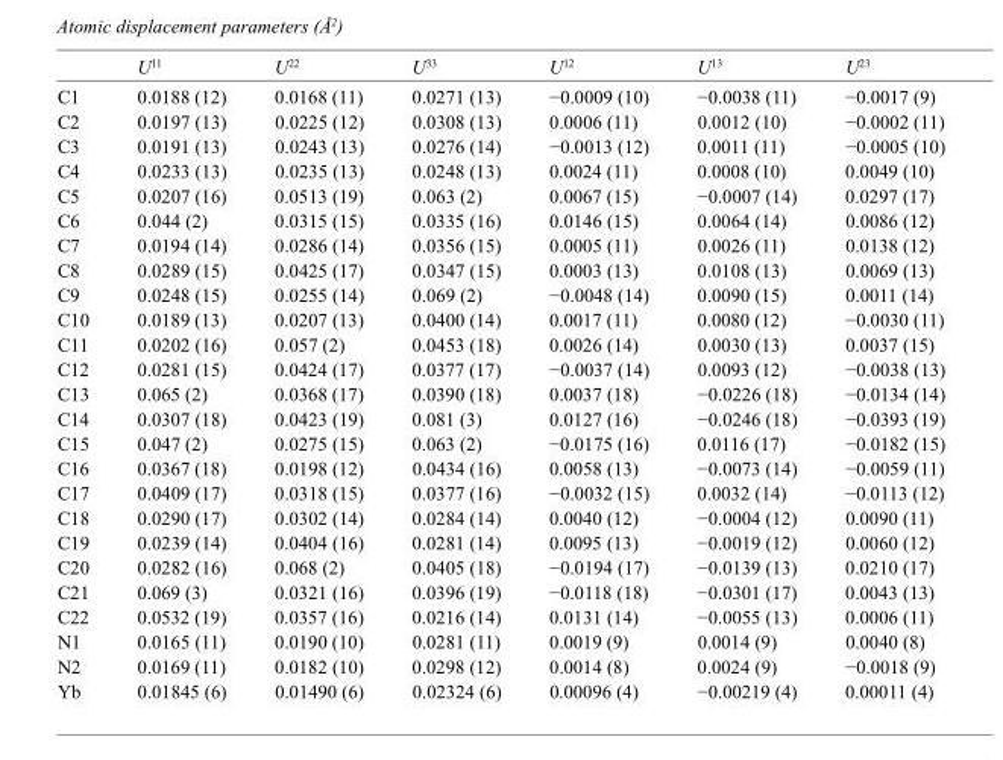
<table><thead><tr><td></td><td>U<sup>11</sup></td><td>U<sup>22</sup></td><td>U<sup>33</sup></td><td>U<sup>12</sup></td><td>U<sup>13</sup></td><td>U<sup>23</sup></td></tr></thead><tbody><tr><td>C1</td><td>0.0188 (12)</td><td>0.0168 (11)</td><td>0.0271 (13)</td><td>−0.0009 (10)</td><td>−0.0038 (11)</td><td>−0.0017 (9)</td></tr><tr><td>C2</td><td>0.0197 (13)</td><td>0.0225 (12)</td><td>0.0308 (13)</td><td>0.0006 (11)</td><td>0.0012 (10)</td><td>−0.0002 (11)</td></tr><tr><td>C3</td><td>0.0191 (13)</td><td>0.0243 (13)</td><td>0.0276 (14)</td><td>−0.0013 (12)</td><td>0.0011 (11)</td><td>−0.0005 (10)</td></tr><tr><td>C4</td><td>0.0233 (13)</td><td>0.0235 (13)</td><td>0.0248 (13)</td><td>0.0024 (11)</td><td>0.0008 (10)</td><td>0.0049 (10)</td></tr><tr><td>C5</td><td>0.0207 (16)</td><td>0.0513 (19)</td><td>0.063 (2)</td><td>0.0067 (15)</td><td>−0.0007 (14)</td><td>0.0297 (17)</td></tr><tr><td>C6</td><td>0.044 (2)</td><td>0.0315 (15)</td><td>0.0335 (16)</td><td>0.0146 (15)</td><td>0.0064 (14)</td><td>0.0086 (12)</td></tr><tr><td>C7</td><td>0.0194 (14)</td><td>0.0286 (14)</td><td>0.0356 (15)</td><td>0.0005 (11)</td><td>0.0026 (11)</td><td>0.0138 (12)</td></tr><tr><td>C8</td><td>0.0289 (15)</td><td>0.0425 (17)</td><td>0.0347 (15)</td><td>0.0003 (13)</td><td>0.0108 (13)</td><td>0.0069 (13)</td></tr><tr><td>C9</td><td>0.0248 (15)</td><td>0.0255 (14)</td><td>0.069 (2)</td><td>−0.0048 (14)</td><td>0.0090 (15)</td><td>0.0011 (14)</td></tr><tr><td>C10</td><td>0.0189 (13)</td><td>0.0207 (13)</td><td>0.0400 (14)</td><td>0.0017 (11)</td><td>0.0080 (12)</td><td>−0.0030 (11)</td></tr><tr><td>C11</td><td>0.0202 (16)</td><td>0.057 (2)</td><td>0.0453 (18)</td><td>0.0026 (14)</td><td>0.0030 (13)</td><td>0.0037 (15)</td></tr><tr><td>C12</td><td>0.0281 (15)</td><td>0.0424 (17)</td><td>0.0377 (17)</td><td>−0.0037 (14)</td><td>0.0093 (12)</td><td>−0.0038 (13)</td></tr><tr><td>C13</td><td>0.065 (2)</td><td>0.0368 (17)</td><td>0.0390 (18)</td><td>0.0037 (18)</td><td>−0.0226 (18)</td><td>−0.0134 (14)</td></tr><tr><td>C14</td><td>0.0307 (18)</td><td>0.0423 (19)</td><td>0.081 (3)</td><td>0.0127 (16)</td><td>−0.0246 (18)</td><td>−0.0393 (19)</td></tr><tr><td>C15</td><td>0.047 (2)</td><td>0.0275 (15)</td><td>0.063 (2)</td><td>−0.0175 (16)</td><td>0.0116 (17)</td><td>−0.0182 (15)</td></tr><tr><td>C16</td><td>0.0367 (18)</td><td>0.0198 (12)</td><td>0.0434 (16)</td><td>0.0058 (13)</td><td>−0.0073 (14)</td><td>−0.0059 (11)</td></tr><tr><td>C17</td><td>0.0409 (17)</td><td>0.0318 (15)</td><td>0.0377 (16)</td><td>−0.0032 (15)</td><td>0.0032 (14)</td><td>−0.0113 (12)</td></tr><tr><td>C18</td><td>0.0290 (17)</td><td>0.0302 (14)</td><td>0.0284 (14)</td><td>0.0040 (12)</td><td>−0.0004 (12)</td><td>0.0090 (11)</td></tr><tr><td>C19</td><td>0.0239 (14)</td><td>0.0404 (16)</td><td>0.0281 (14)</td><td>0.0095 (13)</td><td>−0.0019 (12)</td><td>0.0060 (12)</td></tr><tr><td>C20</td><td>0.0282 (16)</td><td>0.068 (2)</td><td>0.0405 (18)</td><td>−0.0194 (17)</td><td>−0.0139 (13)</td><td>0.0210 (17)</td></tr><tr><td>C21</td><td>0.069 (3)</td><td>0.0321 (16)</td><td>0.0396 (19)</td><td>−0.0118 (18)</td><td>−0.0301 (17)</td><td>0.0043 (13)</td></tr><tr><td>C22</td><td>0.0532 (19)</td><td>0.0357 (16)</td><td>0.0216 (14)</td><td>0.0131 (14)</td><td>−0.0055 (13)</td><td>0.0006 (11)</td></tr><tr><td>N1</td><td>0.0165 (11)</td><td>0.0190 (10)</td><td>0.0281 (11)</td><td>0.0019 (9)</td><td>0.0014 (9)</td><td>0.0040 (8)</td></tr><tr><td>N2</td><td>0.0169 (11)</td><td>0.0182 (10)</td><td>0.0298 (12)</td><td>0.0014 (8)</td><td>0.0024 (9)</td><td>−0.0018 (9)</td></tr><tr><td>Yb</td><td>0.01845 (6)</td><td>0.01490 (6)</td><td>0.02324 (6)</td><td>0.00096 (4)</td><td>−0.00219 (4)</td><td>0.00011 (4)</td></tr></tbody></table>